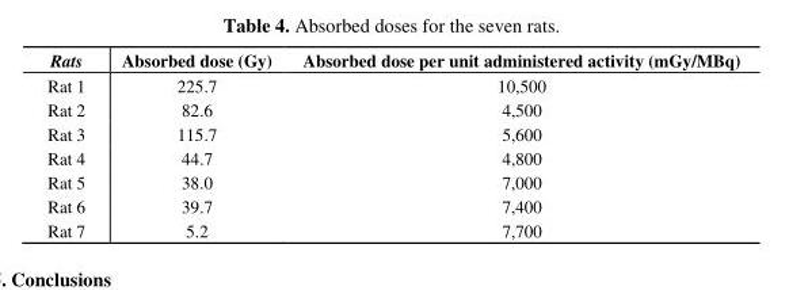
<table><thead><tr><td>Rats</td><td>Absorbed dose (Gy)</td><td>Absorbed dose per unit administered activity (mGy/MBq)</td></tr></thead><tbody><tr><td>Rat 1</td><td>225.7</td><td>10,500</td></tr><tr><td>Rat 2</td><td>82.6</td><td>4,500</td></tr><tr><td>Rat 3</td><td>115.7</td><td>5,600</td></tr><tr><td>Rat 4</td><td>44.7</td><td>4,800</td></tr><tr><td>Rat 5</td><td>38.0</td><td>7,000</td></tr><tr><td>Rat 6</td><td>39.7</td><td>7,400</td></tr><tr><td>Rat 7</td><td>5.2</td><td>7,700</td></tr></tbody></table>